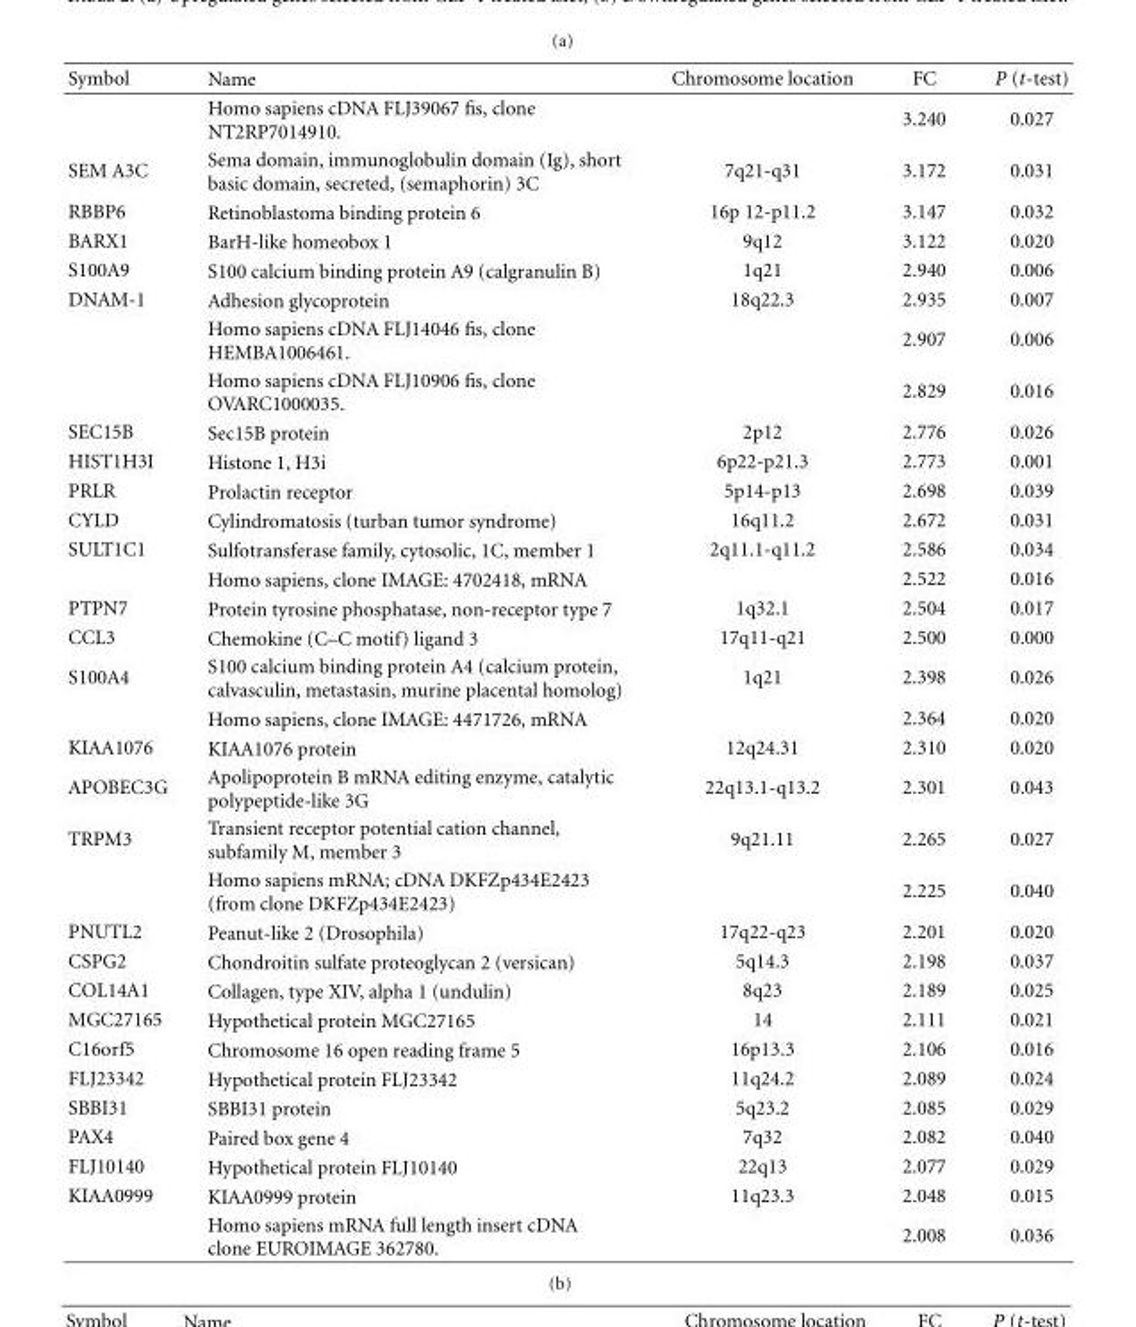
<table><thead><tr><td>Symbol</td><td>Name</td><td>Chromosome location</td><td>FC</td><td>P (t-test)</td></tr></thead><tbody><tr><td></td><td>Homo sapiens cDNA FLJ39067 fis, clone NT2RP7014910.</td><td></td><td>3.240</td><td>0.027</td></tr><tr><td>SEM A3C</td><td>Sema domain, immunoglobulin domain (Ig), short basic domain, secreted, (semaphorin) 3C</td><td>7q21-q31</td><td>3.172</td><td>0.031</td></tr><tr><td>RBBP6</td><td>Retinoblastoma binding protein 6</td><td>16p 12-p11.2</td><td>3.147</td><td>0.032</td></tr><tr><td>BARX1</td><td>BarH-like homeobox 1</td><td>9q12</td><td>3.122</td><td>0.020</td></tr><tr><td>S100A9</td><td>S100 calcium binding protein A9 (calgranulin B)</td><td>1q21</td><td>2.940</td><td>0.006</td></tr><tr><td rowspan="3">DNAM-1</td><td>Adhesion glycoprotein</td><td>18q22.3</td><td>2.935</td><td>0.007</td></tr><tr><td>Homo sapiens cDNA FLJ14046 fis, clone HEMBA1006461.</td><td></td><td>2.907</td><td>0.006</td></tr><tr><td>Homo sapiens cDNA FLJ10906 fis, clone OVARC1000035.</td><td></td><td>2.829</td><td>0.016</td></tr><tr><td>SEC15B</td><td>Sec15B protein</td><td>2p12</td><td>2.776</td><td>0.026</td></tr><tr><td>HIST1H3I</td><td>Histone 1, H3i</td><td>6p22-p21.3</td><td>2.773</td><td>0.001</td></tr><tr><td>PRLR</td><td>Prolactin receptor</td><td>5p14-p13</td><td>2.698</td><td>0.039</td></tr><tr><td>CYLD</td><td>Cylindromatosis (turban tumor syndrome)</td><td>16q11.2</td><td>2.672</td><td>0.031</td></tr><tr><td rowspan="2">SULT1C1</td><td>Sulfotransferase family, cytosolic, 1C, member 1</td><td>2q11.1-q11.2</td><td>2.586</td><td>0.034</td></tr><tr><td>Homo sapiens, clone IMAGE: 4702418, mRNA</td><td></td><td>2.522</td><td>0.016</td></tr><tr><td>PTPN7</td><td>Protein tyrosine phosphatase, non-receptor type 7</td><td>1q32.1</td><td>2.504</td><td>0.017</td></tr><tr><td>CCL3</td><td>Chemokine (C–C motif) ligand 3</td><td>17q11-q21</td><td>2.500</td><td>0.000</td></tr><tr><td rowspan="2">S100A4</td><td>S100 calcium binding protein A4 (calcium protein, calvasculin, metastasin, murine placental homolog)</td><td>1q21</td><td>2.398</td><td>0.026</td></tr><tr><td>Homo sapiens, clone IMAGE: 4471726, mRNA</td><td></td><td>2.364</td><td>0.020</td></tr><tr><td>KIAA1076</td><td>KIAA1076 protein</td><td>12q24.31</td><td>2.310</td><td>0.020</td></tr><tr><td>APOBEC3G</td><td>Apolipoprotein B mRNA editing enzyme, catalytic polypeptide-like 3G</td><td>22q13.1-q13.2</td><td>2.301</td><td>0.043</td></tr><tr><td rowspan="2">TRPM3</td><td>Transient receptor potential cation channel, subfamily M, member 3</td><td>9q21.11</td><td>2.265</td><td>0.027</td></tr><tr><td>Homo sapiens mRNA; cDNA DKFZp434E2423 (from clone DKFZp434E2423)</td><td></td><td>2.225</td><td>0.040</td></tr><tr><td>PNUTL2</td><td>Peanut-like 2 (Drosophila)</td><td>17q22-q23</td><td>2.201</td><td>0.020</td></tr><tr><td>CSPG2</td><td>Chondroitin sulfate proteoglycan 2 (versican)</td><td>5q14.3</td><td>2.198</td><td>0.037</td></tr><tr><td>COL14A1</td><td>Collagen, type XIV, alpha 1 (undulin)</td><td>8q23</td><td>2.189</td><td>0.025</td></tr><tr><td>MGC27165</td><td>Hypothetical protein MGC27165</td><td>14</td><td>2.111</td><td>0.021</td></tr><tr><td>C16orf5</td><td>Chromosome 16 open reading frame 5</td><td>16p13.3</td><td>2.106</td><td>0.016</td></tr><tr><td>FLJ23342</td><td>Hypothetical protein FLJ23342</td><td>11q24.2</td><td>2.089</td><td>0.024</td></tr><tr><td>SBBI31</td><td>SBBI31 protein</td><td>5q23.2</td><td>2.085</td><td>0.029</td></tr><tr><td>PAX4</td><td>Paired box gene 4</td><td>7q32</td><td>2.082</td><td>0.040</td></tr><tr><td>FLJ10140</td><td>Hypothetical protein FLJ10140</td><td>22q13</td><td>2.077</td><td>0.029</td></tr><tr><td rowspan="2">KIAA0999</td><td>KIAA0999 protein</td><td>11q23.3</td><td>2.048</td><td>0.015</td></tr><tr><td>Homo sapiens mRNA full length insert cDNA clone EUROIMAGE 362780.</td><td></td><td>2.008</td><td>0.036</td></tr></tbody></table>